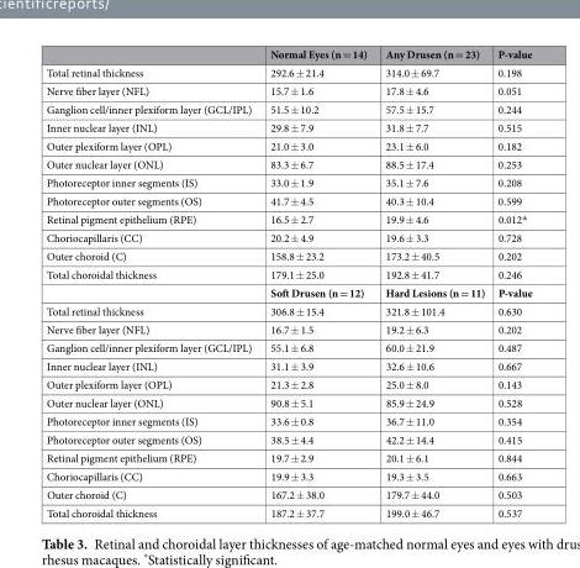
<table><thead><tr><td></td><td>Normal Eyes (n = 14)</td><td>Any Drusen (n = 23)</td><td>P-value</td></tr></thead><tbody><tr><td>Total retinal thickness</td><td>292.6 ± 21.4</td><td>314.0 ± 69.7</td><td>0.198</td></tr><tr><td>Nerve fiber layer (NFL)</td><td>15.7 ± 1.6</td><td>17.8 ± 4.6</td><td>0.051</td></tr><tr><td>Ganglion cell/inner plexiform layer (GCL/IPL)</td><td>51.5 ± 10.2</td><td>57.5 ± 15.7</td><td>0.244</td></tr><tr><td>Inner nuclear layer (INL)</td><td>29.8 ± 7.9</td><td>31.8 ± 7.7</td><td>0.515</td></tr><tr><td>Outer plexiform layer (OPL)</td><td>21.0 ± 3.0</td><td>23.1 ± 6.0</td><td>0.182</td></tr><tr><td>Outer nuclear layer (ONL)</td><td>83.3 ± 6.7</td><td>88.5 ± 17.4</td><td>0.253</td></tr><tr><td>Photoreceptor inner segments (IS)</td><td>33.0 ± 1.9</td><td>35.1 ± 7.6</td><td>0.208</td></tr><tr><td>Photoreceptor outer segments (OS)</td><td>41.7 ± 4.5</td><td>40.3 ± 10.4</td><td>0.599</td></tr><tr><td>Retinal pigment epithelium (RPE)</td><td>16.5 ± 2.7</td><td>19.9 ± 4.6</td><td>0.012*</td></tr><tr><td>Choriocapillaris (CC)</td><td>20.2 ± 4.9</td><td>19.6 ± 3.3</td><td>0.728</td></tr><tr><td>Outer choroid (C)</td><td>158.8 ± 23.2</td><td>173.2 ± 40.5</td><td>0.202</td></tr><tr><td rowspan="2">Total choroidal thickness</td><td>179.1 ± 25.0</td><td>192.8 ± 41.7</td><td>0.246</td></tr><tr><td>Soft Drusen (n = 12)</td><td>Hard Lesions (n = 11)</td><td>P-value</td></tr><tr><td>Total retinal thickness</td><td>306.8 ± 15.4</td><td>321.8 ± 101.4</td><td>0.630</td></tr><tr><td>Nerve fiber layer (NFL)</td><td>16.7 ± 1.5</td><td>19.2 ± 6.3</td><td>0.202</td></tr><tr><td>Ganglion cell/inner plexiform layer (GCL/IPL)</td><td>55.1 ± 6.8</td><td>60.0 ± 21.9</td><td>0.487</td></tr><tr><td>Inner nuclear layer (INL)</td><td>31.1 ± 3.9</td><td>32.6 ± 10.6</td><td>0.667</td></tr><tr><td>Outer plexiform layer (OPL)</td><td>21.3 ± 2.8</td><td>25.0 ± 8.0</td><td>0.143</td></tr><tr><td>Outer nuclear layer (ONL)</td><td>90.8 ± 5.1</td><td>85.9 ± 24.9</td><td>0.528</td></tr><tr><td>Photoreceptor inner segments (IS)</td><td>33.6 ± 0.8</td><td>36.7 ± 11.0</td><td>0.354</td></tr><tr><td>Photoreceptor outer segments (OS)</td><td>38.5 ± 4.4</td><td>42.2 ± 14.4</td><td>0.415</td></tr><tr><td>Retinal pigment epithelium (RPE)</td><td>19.7 ± 2.9</td><td>20.1 ± 6.1</td><td>0.844</td></tr><tr><td>Choriocapillaris (CC)</td><td>19.9 ± 3.3</td><td>19.3 ± 3.5</td><td>0.663</td></tr><tr><td>Outer choroid (C)</td><td>167.2 ± 38.0</td><td>179.7 ± 44.0</td><td>0.503</td></tr><tr><td>Total choroidal thickness</td><td>187.2 ± 37.7</td><td>199.0 ± 46.7</td><td>0.537</td></tr></tbody></table>